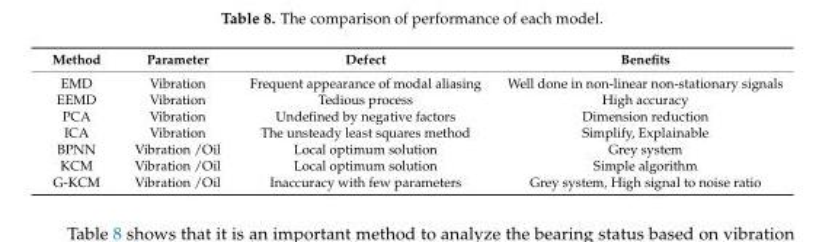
<table><thead><tr><td>Method</td><td>Parameter</td><td>Defect</td><td>Benefits</td></tr></thead><tbody><tr><td>EMD</td><td>Vibration</td><td>Frequent appearance of modal aliasing</td><td>Well done in non-linear non-stationary signals</td></tr><tr><td>EEMD</td><td>Vibration</td><td>Tedious process</td><td>High accuracy</td></tr><tr><td>PCA</td><td>Vibration</td><td>Undefined by negative factors</td><td>Dimension reduction</td></tr><tr><td>ICA</td><td>Vibration</td><td>The unsteady least squares method</td><td>Simplify, Explainable</td></tr><tr><td>BPNN</td><td>Vibration /Oil</td><td>Local optimum solution</td><td>Grey system</td></tr><tr><td>KCM</td><td>Vibration /Oil</td><td>Local optimum solution</td><td>Simple algorithm</td></tr><tr><td>G-KCM</td><td>Vibration /Oil</td><td>Inaccuracy with few parameters</td><td>Grey system, High signal to noise ratio</td></tr></tbody></table>